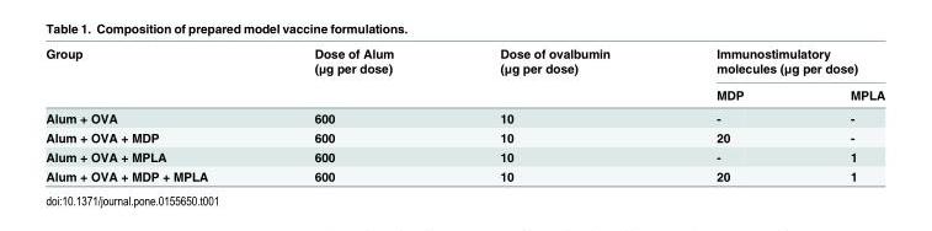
<table><thead><tr><td rowspan="2">Group</td><td rowspan="2">Dose of Alum (μg per dose)</td><td rowspan="2">Dose of ovalbumin (μg per dose)</td><td colspan="2">Immunostimulatory molecules (μg per dose)</td></tr><tr><td>MDP</td><td>MPLA</td></tr></thead><tbody><tr><td>Alum + OVA</td><td>600</td><td>10</td><td>-</td><td>-</td></tr><tr><td>Alum + OVA + MDP</td><td>600</td><td>10</td><td>20</td><td>-</td></tr><tr><td>Alum + OVA + MPLA</td><td>600</td><td>10</td><td>-</td><td>1</td></tr><tr><td>Alum + OVA + MDP + MPLA</td><td>600</td><td>10</td><td>20</td><td>1</td></tr></tbody></table>